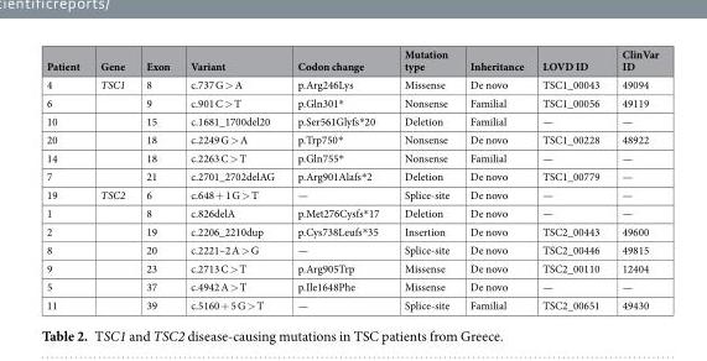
<table><thead><tr><td>Patient</td><td>Gene</td><td>Exon</td><td>Variant</td><td>Codon change</td><td>Mutation type</td><td>Inheritance</td><td>LOVD ID</td><td>ClinVar ID</td></tr></thead><tbody><tr><td>4</td><td>TSC1</td><td>8</td><td>c.737 G &gt; A</td><td>p.Arg246Lys</td><td>Missense</td><td>De novo</td><td>TSC1_00043</td><td>49094</td></tr><tr><td>6</td><td></td><td>9</td><td>c.901 C &gt; T</td><td>p.Gln301*</td><td>Nonsense</td><td>Familial</td><td>TSC1_00056</td><td>49119</td></tr><tr><td>10</td><td></td><td>15</td><td>c.1681_1700del20</td><td>p.Ser561Glyfs*20</td><td>Deletion</td><td>Familial</td><td>—</td><td>—</td></tr><tr><td>20</td><td></td><td>18</td><td>c.2249 G &gt; A</td><td>p.Trp750*</td><td>Nonsense</td><td>De novo</td><td>TSC1_00228</td><td>48922</td></tr><tr><td>14</td><td></td><td>18</td><td>c.2263 C &gt; T</td><td>p.Gln755*</td><td>Nonsense</td><td>Familial</td><td>—</td><td>—</td></tr><tr><td>7</td><td></td><td>21</td><td>c.2701_2702delAG</td><td>p.Arg901Alafs*2</td><td>Deletion</td><td>De novo</td><td>TSC1_00779</td><td>—</td></tr><tr><td>19</td><td>TSC2</td><td>6</td><td>c.648 + 1 G &gt; T</td><td>—</td><td>Splice-site</td><td>De novo</td><td>—</td><td>—</td></tr><tr><td>1</td><td></td><td>8</td><td>c.826delA</td><td>p.Met276Cysfs*17</td><td>Deletion</td><td>De novo</td><td>—</td><td>—</td></tr><tr><td>2</td><td></td><td>19</td><td>c.2206_2210dup</td><td>p.Cys738Leufs*35</td><td>Insertion</td><td>De novo</td><td>TSC2_00443</td><td>49600</td></tr><tr><td>8</td><td></td><td>20</td><td>c.2221–2 A &gt; G</td><td>—</td><td>Splice-site</td><td>De novo</td><td>TSC2_00446</td><td>49815</td></tr><tr><td>9</td><td></td><td>23</td><td>c.2713 C &gt; T</td><td>p.Arg905Trp</td><td>Missense</td><td>De novo</td><td>TSC2_00110</td><td>12404</td></tr><tr><td>5</td><td></td><td>37</td><td>c.4942 A &gt; T</td><td>p.Ile1648Phe</td><td>Missense</td><td>De novo</td><td>—</td><td>—</td></tr><tr><td>11</td><td></td><td>39</td><td>c.5160 + 5 G &gt; T</td><td>—</td><td>Splice-site</td><td>Familial</td><td>TSC2_00651</td><td>49430</td></tr></tbody></table>